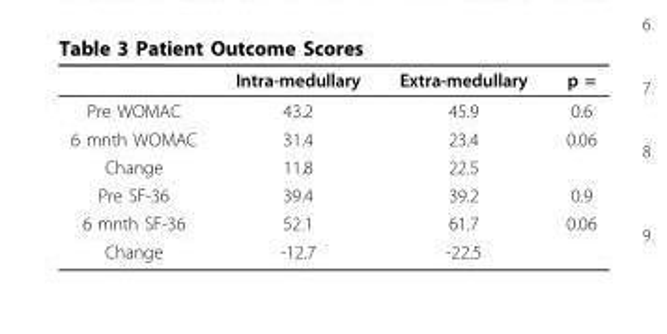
<table><thead><tr><td></td><td>Intra-medullary</td><td>Extra-medullary</td><td>p =</td></tr></thead><tbody><tr><td>Pre WOMAC</td><td>43.2</td><td>45.9</td><td>0.6</td></tr><tr><td>6 mnth WOMAC</td><td>31.4</td><td>23.4</td><td>0.06</td></tr><tr><td>Change</td><td>11.8</td><td>22.5</td><td></td></tr><tr><td>Pre SF-36</td><td>39.4</td><td>39.2</td><td>0.9</td></tr><tr><td>6 mnth SF-36</td><td>52.1</td><td>61.7</td><td>0.06</td></tr><tr><td>Change</td><td>-12.7</td><td>-22.5</td><td></td></tr></tbody></table>